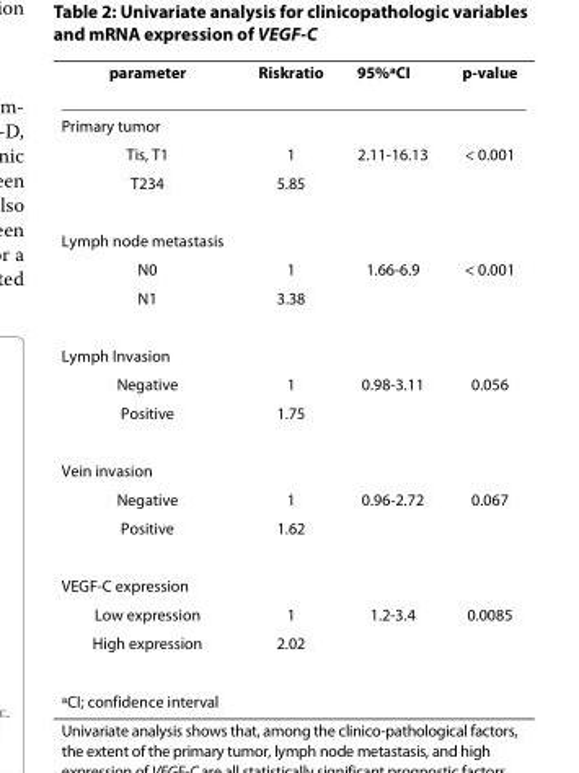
<table><thead><tr><td>parameter</td><td>Riskratio</td><td>95%<sup>a</sup>CI</td><td>p-value</td></tr></thead><tbody><tr><td colspan="4">Primary tumor</td></tr><tr><td>Tis, T1</td><td>1</td><td>2.11-16.13</td><td>&lt; 0.001</td></tr><tr><td>T234</td><td>5.85</td><td></td><td></td></tr><tr><td colspan="4">Lymph node metastasis</td></tr><tr><td>N0</td><td>1</td><td>1.66-6.9</td><td>&lt; 0.001</td></tr><tr><td>N1</td><td>3.38</td><td></td><td></td></tr><tr><td colspan="4">Lymph Invasion</td></tr><tr><td>Negative</td><td>1</td><td>0.98-3.11</td><td>0.056</td></tr><tr><td>Positive</td><td>1.75</td><td></td><td></td></tr><tr><td colspan="4">Vein invasion</td></tr><tr><td>Negative</td><td>1</td><td>0.96-2.72</td><td>0.067</td></tr><tr><td>Positive</td><td>1.62</td><td></td><td></td></tr><tr><td colspan="4">VEGF-C expression</td></tr><tr><td>Low expression</td><td>1</td><td>1.2-3.4</td><td>0.0085</td></tr><tr><td>High expression</td><td>2.02</td><td></td><td></td></tr><tr><td><sup>a</sup>CI; confidence interval</td><td></td><td></td><td></td></tr></tbody></table>